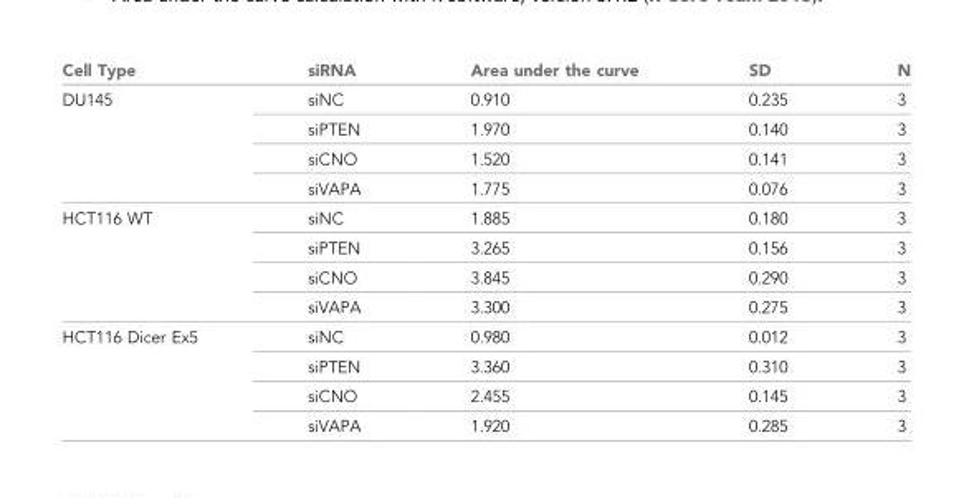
<table><thead><tr><td>Cell Type</td><td>siRNA</td><td>Area under the curve</td><td>SD</td><td>N</td></tr></thead><tbody><tr><td rowspan="4">DU145</td><td>siNC</td><td>0.910</td><td>0.235</td><td>3</td></tr><tr><td>siPTEN</td><td>1.970</td><td>0.140</td><td>3</td></tr><tr><td>siCNO</td><td>1.520</td><td>0.141</td><td>3</td></tr><tr><td>siVAPA</td><td>1.775</td><td>0.076</td><td>3</td></tr><tr><td rowspan="4">HCT116 WT</td><td>siNC</td><td>1.885</td><td>0.180</td><td>3</td></tr><tr><td>siPTEN</td><td>3.265</td><td>0.156</td><td>3</td></tr><tr><td>siCNO</td><td>3.845</td><td>0.290</td><td>3</td></tr><tr><td>siVAPA</td><td>3.300</td><td>0.275</td><td>3</td></tr><tr><td rowspan="4">HCT116 Dicer Ex5</td><td>siNC</td><td>0.980</td><td>0.012</td><td>3</td></tr><tr><td>siPTEN</td><td>3.360</td><td>0.310</td><td>3</td></tr><tr><td>siCNO</td><td>2.455</td><td>0.145</td><td>3</td></tr><tr><td>siVAPA</td><td>1.920</td><td>0.285</td><td>3</td></tr></tbody></table>